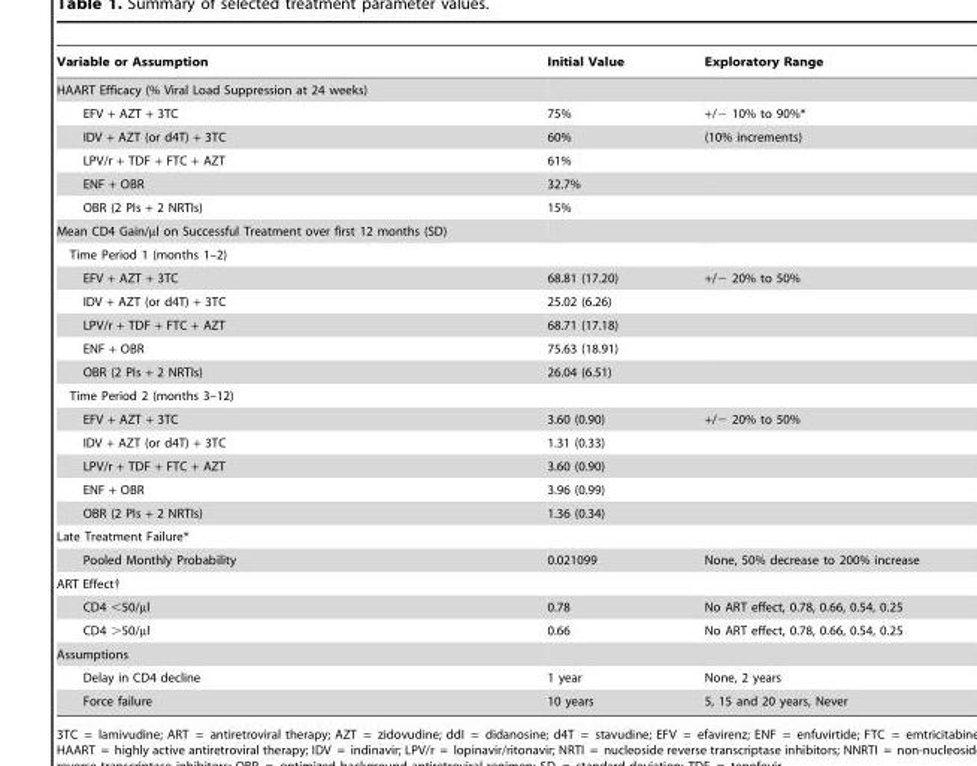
<table><thead><tr><td>Variable or Assumption</td><td>Initial Value</td><td>Exploratory Range</td></tr></thead><tbody><tr><td colspan="3">HAART Efficacy (% Viral Load Suppression at 24 weeks)</td></tr><tr><td>EFV + AZT + 3TC</td><td>75%</td><td>+/− 10% to 90%*</td></tr><tr><td>IDV + AZT (or d4T) + 3TC</td><td>60%</td><td>(10% increments)</td></tr><tr><td>LPV/r + TDF + FTC + AZT</td><td>61%</td><td></td></tr><tr><td>ENF + OBR</td><td>32.7%</td><td></td></tr><tr><td>OBR (2 PIs + 2 NRTIs)</td><td>15%</td><td></td></tr><tr><td colspan="3">Mean CD4 Gain/µl on Successful Treatment over first 12 months (SD)</td></tr><tr><td colspan="3">Time Period 1 (months 1–2)</td></tr><tr><td>EFV + AZT + 3TC</td><td>68.81 (17.20)</td><td>+/− 20% to 50%</td></tr><tr><td>IDV + AZT (or d4T) + 3TC</td><td>25.02 (6.26)</td><td></td></tr><tr><td>LPV/r + TDF + FTC + AZT</td><td>68.71 (17.18)</td><td></td></tr><tr><td>ENF + OBR</td><td>75.63 (18.91)</td><td></td></tr><tr><td>OBR (2 PIs + 2 NRTIs)</td><td>26.04 (6.51)</td><td></td></tr><tr><td colspan="3">Time Period 2 (months 3–12)</td></tr><tr><td>EFV + AZT + 3TC</td><td>3.60 (0.90)</td><td>+/− 20% to 50%</td></tr><tr><td>IDV + AZT (or d4T) + 3TC</td><td>1.31 (0.33)</td><td></td></tr><tr><td>LPV/r + TDF + FTC + AZT</td><td>3.60 (0.90)</td><td></td></tr><tr><td>ENF + OBR</td><td>3.96 (0.99)</td><td></td></tr><tr><td>OBR (2 PIs + 2 NRTIs)</td><td>1.36 (0.34)</td><td></td></tr><tr><td colspan="3">Late Treatment Failure*</td></tr><tr><td>Pooled Monthly Probability</td><td>0.021099</td><td>None, 50% decrease to 200% increase</td></tr><tr><td colspan="3">ART Effect†</td></tr><tr><td>CD4 &lt;50/µl</td><td>0.78</td><td>No ART effect, 0.78, 0.66, 0.54, 0.25</td></tr><tr><td>CD4 &gt;50/µl</td><td>0.66</td><td>No ART effect, 0.78, 0.66, 0.54, 0.25</td></tr><tr><td colspan="3">Assumptions</td></tr><tr><td>Delay in CD4 decline</td><td>1 year</td><td>None, 2 years</td></tr><tr><td>Force failure</td><td>10 years</td><td>5, 15 and 20 years, Never</td></tr></tbody></table>